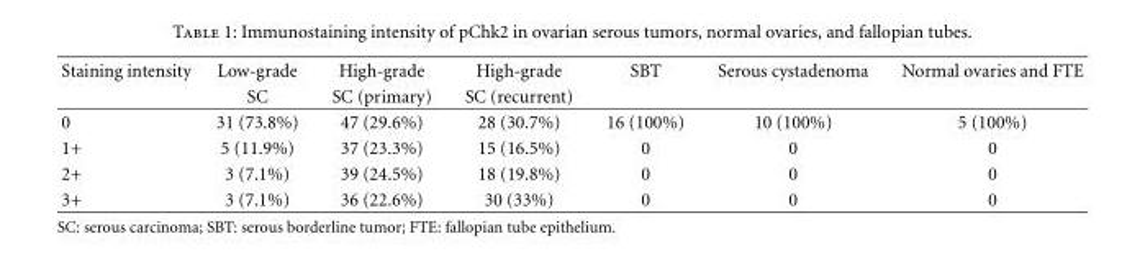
<table><thead><tr><td rowspan="2">Staining intensity</td><td rowspan="2">Low-grade SC</td><td rowspan="2">High-grade SC (primary)</td><td rowspan="2">High-grade SC (recurrent)</td><td rowspan="2">SBT</td><td rowspan="2">Serous cystadenoma</td><td rowspan="2">Normal ovaries and FTE</td></tr><tr></tr></thead><tbody><tr><td>0</td><td>31 (73.8%)</td><td>47 (29.6%)</td><td>28 (30.7%)</td><td>16 (100%)</td><td>10 (100%)</td><td>5 (100%)</td></tr><tr><td>1+</td><td>5 (11.9%)</td><td>37 (23.3%)</td><td>15 (16.5%)</td><td>0</td><td>0</td><td>0</td></tr><tr><td>2+</td><td>3 (7.1%)</td><td>39 (24.5%)</td><td>18 (19.8%)</td><td>0</td><td>0</td><td>0</td></tr><tr><td>3+</td><td>3 (7.1%)</td><td>36 (22.6%)</td><td>30 (33%)</td><td>0</td><td>0</td><td>0</td></tr></tbody></table>